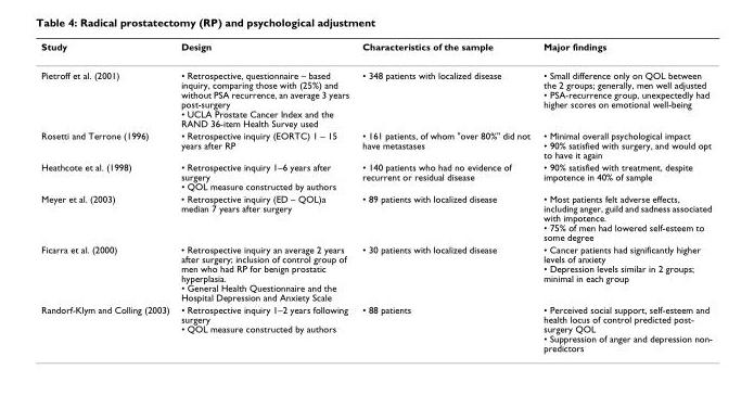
<table><thead><tr><td>Study</td><td>Design</td><td>Characteristics of the sample</td><td>Major findings</td></tr></thead><tbody><tr><td>Pietroff et al. (2001)</td><td>• Retrospective, questionnaire – based inquiry, comparing those with (25%) and without PSA recurrence, an average 3 years post-surgery • UCLA Prostate Cancer Index and the RAND 36-item Health Survey used</td><td>• 348 patients with localized disease</td><td>• Small difference only on QOL between the 2 groups; generally, men well adjusted • PSA-recurrence group, unexpectedly had higher scores on emotional well-being</td></tr><tr><td>Rosetti and Terrone (1996)</td><td>• Retrospective inquiry (EORTC) 1 – 15 years after RP</td><td>• 161 patients, of whom &quot;over 80%&quot; did not have metastases</td><td>• Minimal overall psychological impact • 90% satisfied with surgery, and would opt to have it again</td></tr><tr><td>Heathcote et al. (1998)</td><td>• Retrospective inquiry 1–6 years after surgery • QOL measure constructed by authors</td><td>• 140 patients who had no evidence of recurrent or residual disease</td><td>• 90% satisfied with treatment, despite impotence in 40% of sample</td></tr><tr><td>Meyer et al. (2003)</td><td>• Retrospective inquiry (ED – QOL)a median 7 years after surgery</td><td>• 89 patients with localized disease</td><td>• Most patients felt adverse effects, including anger, guild and sadness associated with impotence. • 75% of men had lowered self-esteem to some degree</td></tr><tr><td>Ficarra et al. (2000)</td><td>• Retrospective inquiry an average 2 years after surgery; inclusion of control group of men who had RP for benign prostatic hyperplasia. • General Health Questionnaire and the Hospital Depression and Anxiety Scale</td><td>• 30 patients with localized disease</td><td>• Cancer patients had significantly higher levels of anxiety • Depression levels similar in 2 groups; minimal in each group</td></tr><tr><td>Randorf-Klym and Colling (2003)</td><td>• Retrospective inquiry 1–2 years following surgery • QOL measure constructed by authors</td><td>• 88 patients</td><td>• Perceived social support, self-esteem and health locus of control predicted post- surgery QOL • Suppression of anger and depression non- predictors</td></tr></tbody></table>